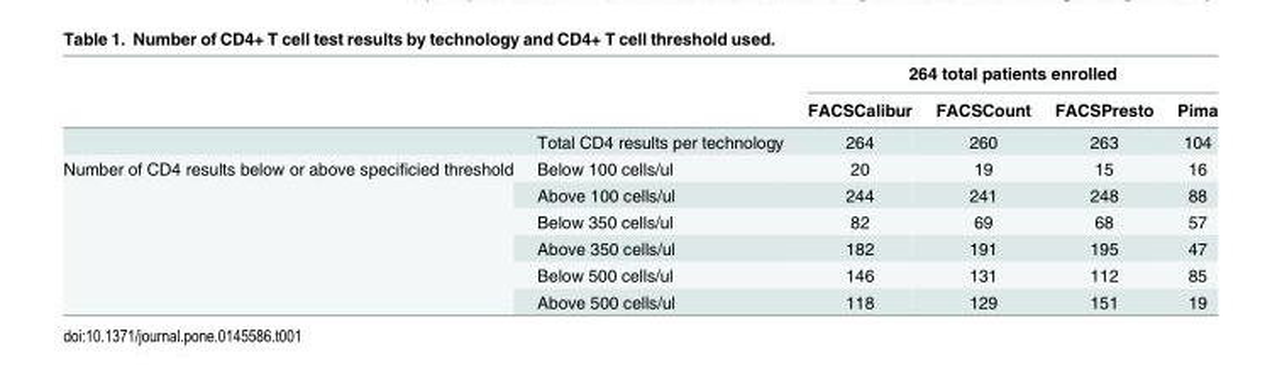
<table><thead><tr><td rowspan="2"></td><td rowspan="2"></td><td colspan="4">264 total patients enrolled</td></tr><tr><td>FACSCalibur</td><td>FACSCount</td><td>FACSPresto</td><td>Pima</td></tr></thead><tbody><tr><td></td><td>Total CD4 results per technology</td><td>264</td><td>260</td><td>263</td><td>104</td></tr><tr><td rowspan="6">Number of CD4 results below or above specificied threshold</td><td>Below 100 cells/ul</td><td>20</td><td>19</td><td>15</td><td>16</td></tr><tr><td>Above 100 cells/ul</td><td>244</td><td>241</td><td>248</td><td>88</td></tr><tr><td>Below 350 cells/ul</td><td>82</td><td>69</td><td>68</td><td>57</td></tr><tr><td>Above 350 cells/ul</td><td>182</td><td>191</td><td>195</td><td>47</td></tr><tr><td>Below 500 cells/ul</td><td>146</td><td>131</td><td>112</td><td>85</td></tr><tr><td>Above 500 cells/ul</td><td>118</td><td>129</td><td>151</td><td>19</td></tr></tbody></table>